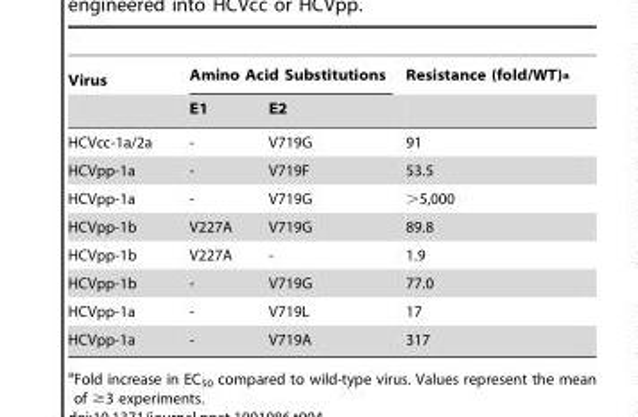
<table><thead><tr><td rowspan="2">Virus</td><td colspan="2">Amino Acid Substitutions</td><td rowspan="2">Resistance (fold/WT)<sup>a</sup></td></tr><tr><td>E1</td><td>E2</td></tr></thead><tbody><tr><td>HCVcc-1a/2a</td><td>-</td><td>V719G</td><td>91</td></tr><tr><td>HCVpp-1a</td><td>-</td><td>V719F</td><td>53.5</td></tr><tr><td>HCVpp-1a</td><td>-</td><td>V719G</td><td>&gt;5,000</td></tr><tr><td>HCVpp-1b</td><td>V227A</td><td>V719G</td><td>89.8</td></tr><tr><td>HCVpp-1b</td><td>V227A</td><td>-</td><td>1.9</td></tr><tr><td>HCVpp-1b</td><td>-</td><td>V719G</td><td>77.0</td></tr><tr><td>HCVpp-1a</td><td>-</td><td>V719L</td><td>17</td></tr><tr><td>HCVpp-1a</td><td>-</td><td>V719A</td><td>317</td></tr></tbody></table>